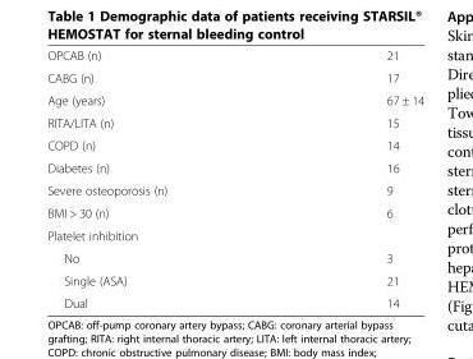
<table><tbody><tr><td>OPCAB (n)</td><td>21</td></tr><tr><td>CABG (n)</td><td>17</td></tr><tr><td>Age (years)</td><td>67 ± 14</td></tr><tr><td>RITA/LITA (n)</td><td>15</td></tr><tr><td>COPD (n)</td><td>14</td></tr><tr><td>Diabetes (n)</td><td>16</td></tr><tr><td>Severe osteoporosis (n)</td><td>9</td></tr><tr><td>BMI &gt; 30 (n)</td><td>6</td></tr><tr><td colspan="2">Platelet inhibition</td></tr><tr><td>No</td><td>3</td></tr><tr><td>Single (ASA)</td><td>21</td></tr><tr><td>Dual</td><td>14</td></tr></tbody></table>